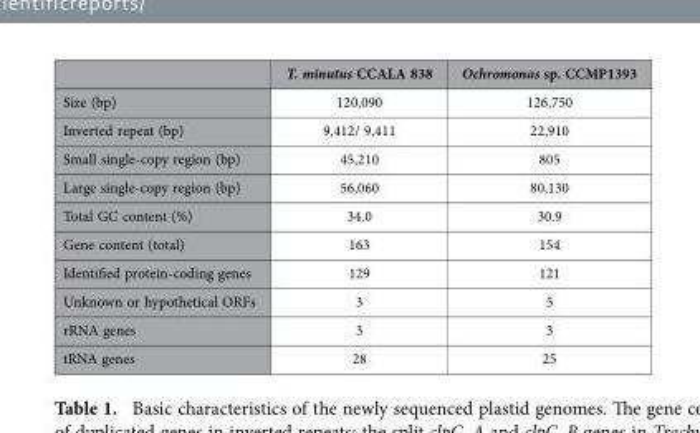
<table><thead><tr><td></td><td>T. minutus CCALA 838</td><td>Ochromonas sp. CCMP1393</td></tr></thead><tbody><tr><td>Size (bp)</td><td>120,090</td><td>126,750</td></tr><tr><td>Inverted repeat (bp)</td><td>9,412/ 9,411</td><td>22,910</td></tr><tr><td>Small single-copy region (bp)</td><td>45,210</td><td>805</td></tr><tr><td>Large single-copy region (bp)</td><td>56,060</td><td>80,130</td></tr><tr><td>Total GC content (%)</td><td>34.0</td><td>30.9</td></tr><tr><td>Gene content (total)</td><td>163</td><td>154</td></tr><tr><td>Identified protein-coding genes</td><td>129</td><td>121</td></tr><tr><td>Unknown or hypothetical ORFs</td><td>3</td><td>5</td></tr><tr><td>rRNA genes</td><td>3</td><td>3</td></tr><tr><td>tRNA genes</td><td>28</td><td>25</td></tr></tbody></table>